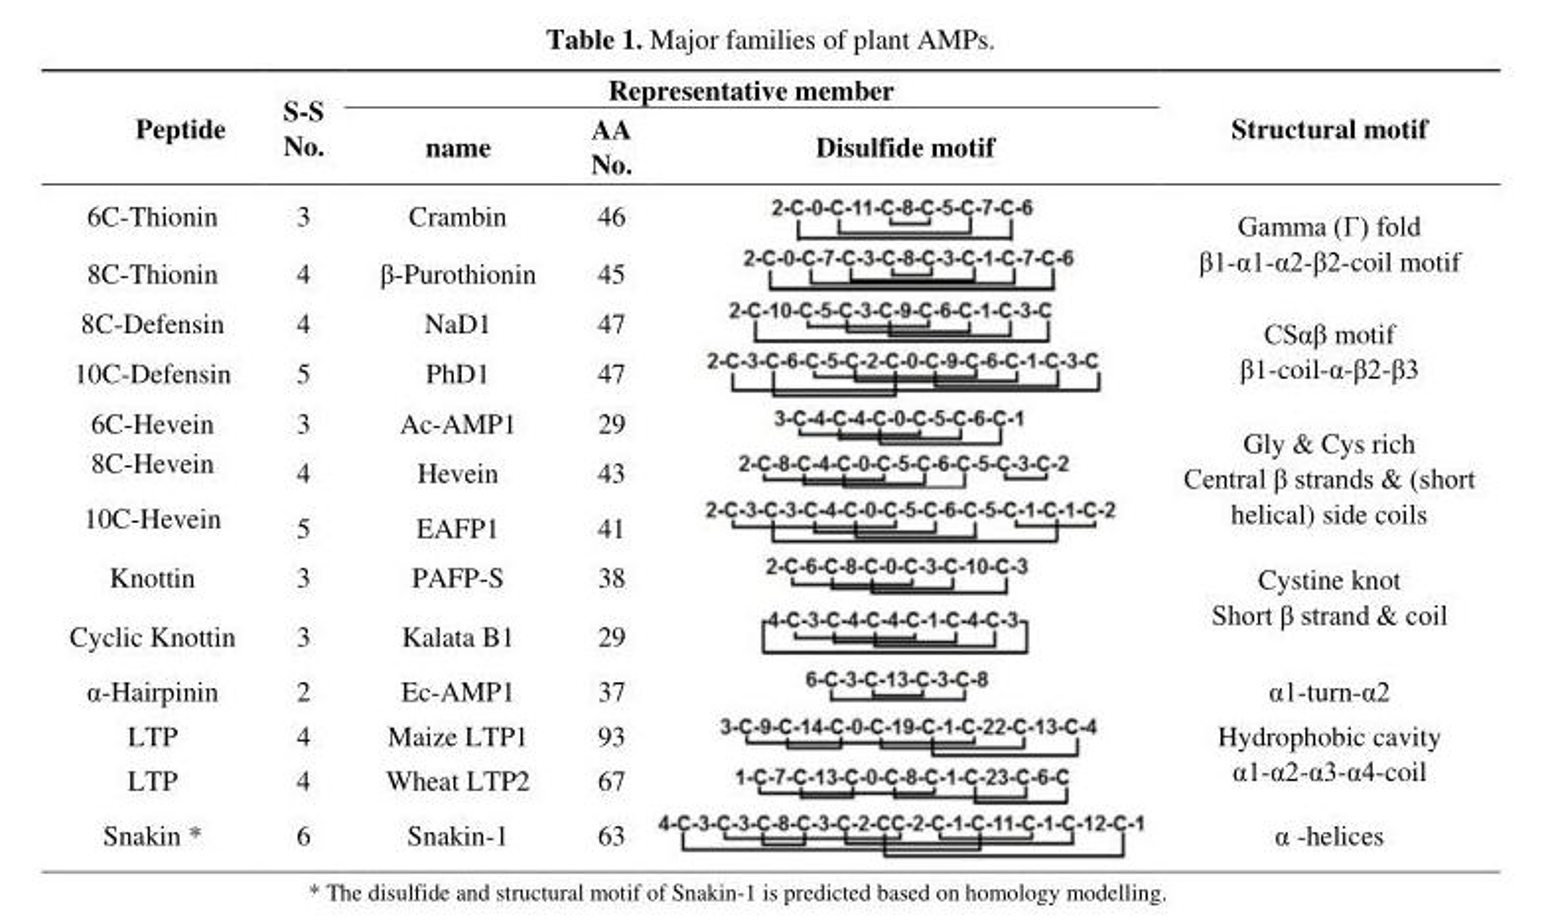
<table><thead><tr><td rowspan="2">Peptide</td><td rowspan="2">S-S No.</td><td colspan="3">Representative member</td><td rowspan="2">Structural motif</td></tr><tr><td>name</td><td>AA No.</td><td>Disulfide motif</td></tr></thead><tbody><tr><td>6C-Thionin</td><td>3</td><td>Crambin</td><td>46</td><td rowspan="13"></td><td rowspan="2">Gamma (Г) fold β1-α1-α2-β2-coil motif</td></tr><tr><td>8C-Thionin</td><td>4</td><td>β-Purothionin</td><td>45</td></tr><tr><td>8C-Defensin</td><td>4</td><td>NaD1</td><td>47</td><td rowspan="2">CSαβ motif β1-coil-α-β2-β3</td></tr><tr><td>10C-Defensin</td><td>5</td><td>PhD1</td><td>47</td></tr><tr><td>6C-Hevein</td><td>3</td><td>Ac-AMP1</td><td>29</td><td rowspan="3">Gly &amp; Cys rich Central β strands &amp; (short helical) side coils</td></tr><tr><td>8C-Hevein</td><td>4</td><td>Hevein</td><td>43</td></tr><tr><td>10C-Hevein</td><td>5</td><td>EAFP1</td><td>41</td></tr><tr><td>Knottin</td><td>3</td><td>PAFP-S</td><td>38</td><td rowspan="2">Cystine knot Short β strand &amp; coil</td></tr><tr><td>Cyclic Knottin</td><td>3</td><td>Kalata B1</td><td>29</td></tr><tr><td>α-Hairpinin</td><td>2</td><td>Ec-AMP1</td><td>37</td><td>α1-turn-α2</td></tr><tr><td>LTP</td><td>4</td><td>Maize LTP1</td><td>93</td><td rowspan="2">Hydrophobic cavity α1-α2-α3-α4-coil</td></tr><tr><td>LTP</td><td>4</td><td>Wheat LTP2</td><td>67</td></tr><tr><td>Snakin *</td><td>6</td><td>Snakin-1</td><td>63</td><td>α -helices</td></tr></tbody></table>